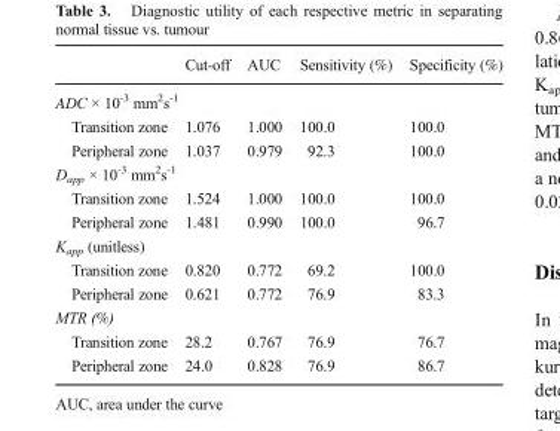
<table><thead><tr><td></td><td>Cut-off</td><td>AUC</td><td>Sensitivity (%)</td><td>Specificity (%)</td></tr></thead><tbody><tr><td colspan="5">ADC × 10<sup>-3</sup> mm<sup>2</sup>s<sup>-1</sup></td></tr><tr><td>Transition zone</td><td>1.076</td><td>1.000</td><td>100.0</td><td>100.0</td></tr><tr><td>Peripheral zone</td><td>1.037</td><td>0.979</td><td>92.3</td><td>100.0</td></tr><tr><td colspan="5">D<sub>app</sub> × 10<sup>-3</sup> mm<sup>2</sup>s<sup>-1</sup></td></tr><tr><td>Transition zone</td><td>1.524</td><td>1.000</td><td>100.0</td><td>100.0</td></tr><tr><td>Peripheral zone</td><td>1.481</td><td>0.990</td><td>100.0</td><td>96.7</td></tr><tr><td colspan="5">K<sub>app</sub> (unitless)</td></tr><tr><td>Transition zone</td><td>0.820</td><td>0.772</td><td>69.2</td><td>100.0</td></tr><tr><td>Peripheral zone</td><td>0.621</td><td>0.772</td><td>76.9</td><td>83.3</td></tr><tr><td colspan="5">MTR (%)</td></tr><tr><td>Transition zone</td><td>28.2</td><td>0.767</td><td>76.9</td><td>76.7</td></tr><tr><td>Peripheral zone</td><td>24.0</td><td>0.828</td><td>76.9</td><td>86.7</td></tr></tbody></table>